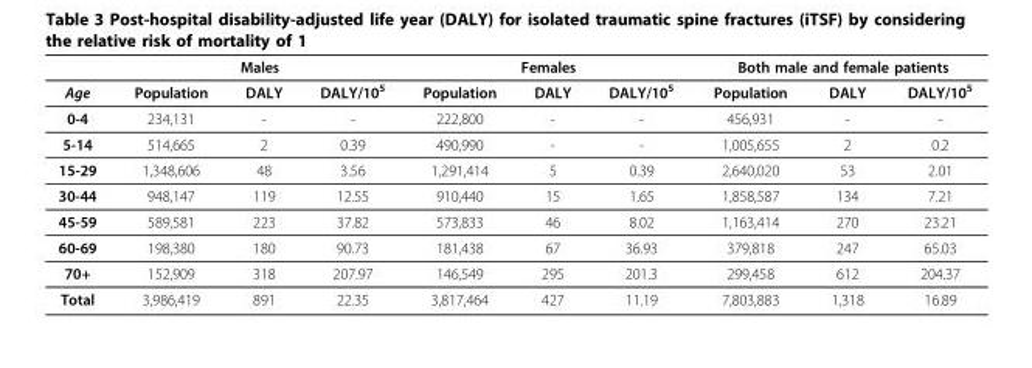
<table><thead><tr><td rowspan="2">Age</td><td colspan="3">Males</td><td colspan="3">Females</td><td colspan="3">Both male and female patients</td></tr><tr><td>Population</td><td>DALY</td><td>DALY/10<sup>5</sup></td><td>Population</td><td>DALY</td><td>DALY/10<sup>5</sup></td><td>Population</td><td>DALY</td><td>DALY/10<sup>5</sup></td></tr></thead><tbody><tr><td>0-4</td><td>234,131</td><td>-</td><td>-</td><td>222,800</td><td>-</td><td>-</td><td>456,931</td><td>-</td><td>-</td></tr><tr><td>5-14</td><td>514,665</td><td>2</td><td>0.39</td><td>490,990</td><td>-</td><td>-</td><td>1,005,655</td><td>2</td><td>0.2</td></tr><tr><td>15-29</td><td>1,348,606</td><td>48</td><td>3.56</td><td>1,291,414</td><td>5</td><td>0.39</td><td>2,640,020</td><td>53</td><td>2.01</td></tr><tr><td>30-44</td><td>948,147</td><td>119</td><td>12.55</td><td>910,440</td><td>15</td><td>1.65</td><td>1,858,587</td><td>134</td><td>7.21</td></tr><tr><td>45-59</td><td>589,581</td><td>223</td><td>37.82</td><td>573,833</td><td>46</td><td>8.02</td><td>1,163,414</td><td>270</td><td>23.21</td></tr><tr><td>60-69</td><td>198,380</td><td>180</td><td>90.73</td><td>181,438</td><td>67</td><td>36.93</td><td>379,818</td><td>247</td><td>65.03</td></tr><tr><td>70+</td><td>152,909</td><td>318</td><td>207.97</td><td>146,549</td><td>295</td><td>201.3</td><td>299,458</td><td>612</td><td>204.37</td></tr><tr><td>Total</td><td>3,986,419</td><td>891</td><td>22.35</td><td>3,817,464</td><td>427</td><td>11.19</td><td>7,803,883</td><td>1,318</td><td>16.89</td></tr></tbody></table>